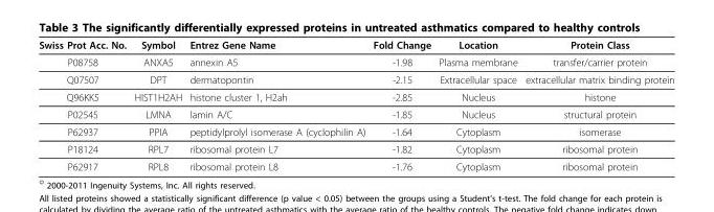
<table><thead><tr><td>Swiss Prot Acc. No.</td><td>Symbol</td><td>Entrez Gene Name</td><td>Fold Change</td><td>Location</td><td>Protein Class</td></tr></thead><tbody><tr><td>P08758</td><td>ANXA5</td><td>annexin A5</td><td>-1.98</td><td>Plasma membrane</td><td>transfer/carrier protein</td></tr><tr><td>Q07507</td><td>DPT</td><td>dermatopontin</td><td>-2.15</td><td>Extracellular space</td><td>extracellular matrix binding protein</td></tr><tr><td>Q96KK5</td><td>HIST1H2AH</td><td>histone cluster 1, H2ah</td><td>-2.85</td><td>Nucleus</td><td>histone</td></tr><tr><td>P02545</td><td>LMNA</td><td>lamin A/C</td><td>-1.85</td><td>Nucleus</td><td>structural protein</td></tr><tr><td>P62937</td><td>PPIA</td><td>peptidylprolyl isomerase A (cyclophilin A)</td><td>-1.64</td><td>Cytoplasm</td><td>isomerase</td></tr><tr><td>P18124</td><td>RPL7</td><td>ribosomal protein L7</td><td>-1.82</td><td>Cytoplasm</td><td>ribosomal protein</td></tr><tr><td>P62917</td><td>RPL8</td><td>ribosomal protein L8</td><td>-1.76</td><td>Cytoplasm</td><td>ribosomal protein</td></tr></tbody></table>